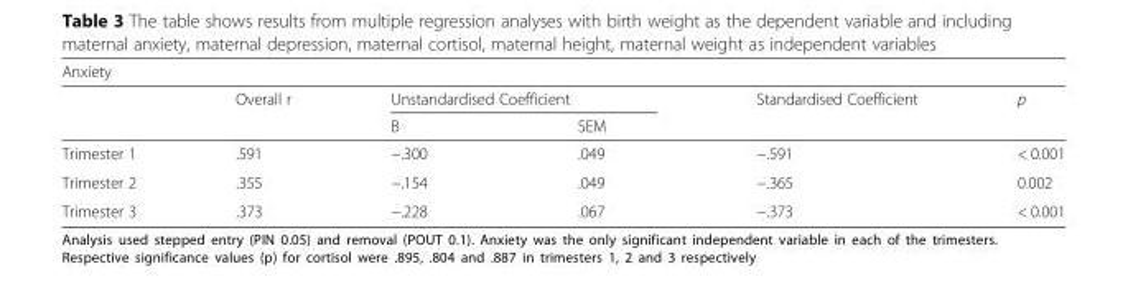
<table><thead><tr><td colspan="6">Anxiety</td></tr><tr><td rowspan="2"></td><td rowspan="2">Overall r</td><td colspan="2">Unstandardised Coefficient</td><td rowspan="2">Standardised Coefficient</td><td rowspan="2">p</td></tr><tr><td>B</td><td>SEM</td></tr></thead><tbody><tr><td>Trimester 1</td><td>.591</td><td>−.300</td><td>.049</td><td>−.591</td><td>&lt; 0.001</td></tr><tr><td>Trimester 2</td><td>.355</td><td>−.154</td><td>.049</td><td>−.365</td><td>0.002</td></tr><tr><td>Trimester 3</td><td>.373</td><td>−.228</td><td>.067</td><td>−.373</td><td>&lt; 0.001</td></tr></tbody></table>